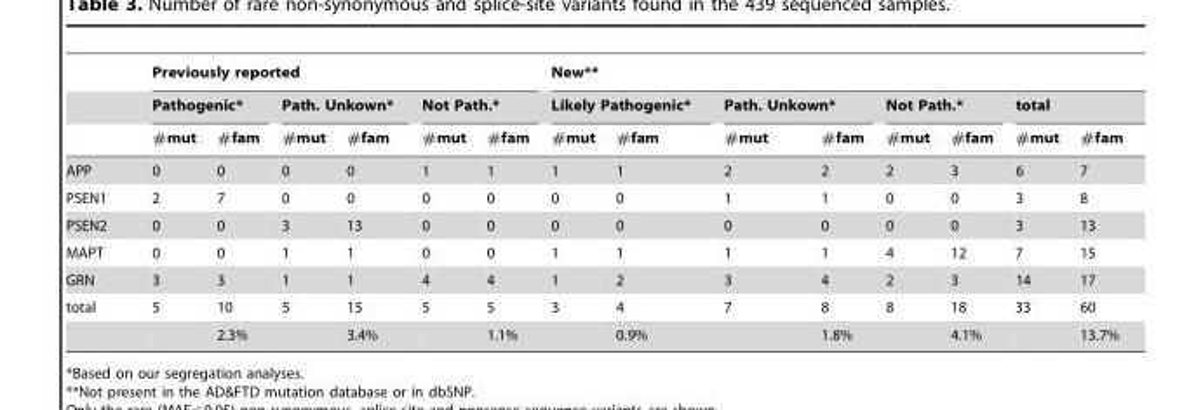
<table><thead><tr><td rowspan="3"></td><td colspan="6">Previously reported</td><td colspan="8">New**</td></tr><tr><td colspan="2">Pathogenic*</td><td colspan="2">Path. Unkown*</td><td colspan="2">Not Path.*</td><td colspan="2">Likely Pathogenic*</td><td colspan="2">Path. Unkown*</td><td colspan="2">Not Path.*</td><td colspan="2">total</td></tr><tr><td>#mut</td><td>#fam</td><td>#mut</td><td>#fam</td><td>#mut</td><td>#fam</td><td>#mut</td><td>#fam</td><td>#mut</td><td>#fam</td><td>#mut</td><td>#fam</td><td>#mut</td><td>#fam</td></tr></thead><tbody><tr><td>APP</td><td>0</td><td>0</td><td>0</td><td>0</td><td>1</td><td>1</td><td>1</td><td>1</td><td>2</td><td>2</td><td>2</td><td>3</td><td>6</td><td>7</td></tr><tr><td>PSEN1</td><td>2</td><td>7</td><td>0</td><td>0</td><td>0</td><td>0</td><td>0</td><td>0</td><td>1</td><td>1</td><td>0</td><td>0</td><td>3</td><td>8</td></tr><tr><td>PSEN2</td><td>0</td><td>0</td><td>3</td><td>13</td><td>0</td><td>0</td><td>0</td><td>0</td><td>0</td><td>0</td><td>0</td><td>0</td><td>3</td><td>13</td></tr><tr><td>MAPT</td><td>0</td><td>0</td><td>1</td><td>1</td><td>0</td><td>0</td><td>1</td><td>1</td><td>1</td><td>1</td><td>4</td><td>12</td><td>7</td><td>15</td></tr><tr><td>GRN</td><td>3</td><td>3</td><td>1</td><td>1</td><td>4</td><td>4</td><td>1</td><td>2</td><td>3</td><td>4</td><td>2</td><td>3</td><td>14</td><td>17</td></tr><tr><td rowspan="2">total</td><td>5</td><td>10</td><td>5</td><td>15</td><td>5</td><td>5</td><td>3</td><td>4</td><td>7</td><td>8</td><td>8</td><td>18</td><td>33</td><td>60</td></tr><tr><td></td><td>2.3%</td><td></td><td>3.4%</td><td></td><td>1.1%</td><td></td><td>0.9%</td><td></td><td>1.8%</td><td></td><td>4.1%</td><td></td><td>13.7%</td></tr></tbody></table>